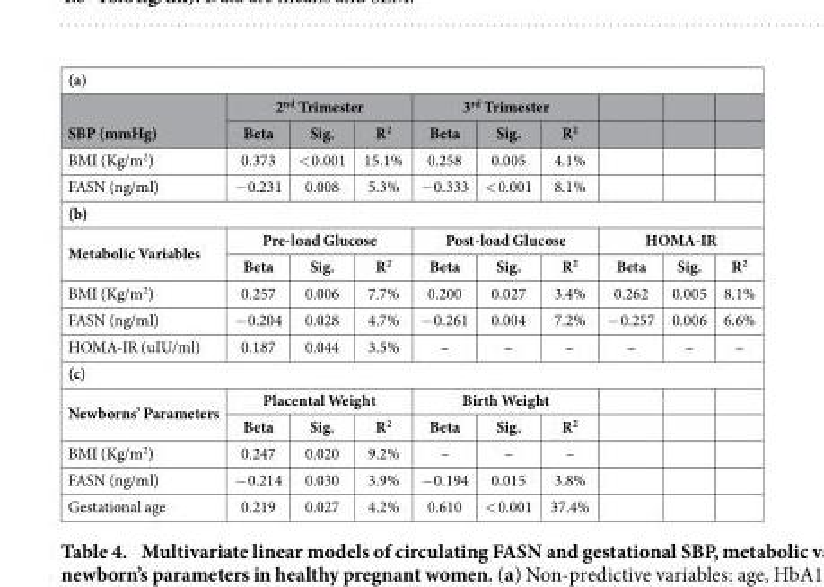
<table><tbody><tr><td colspan="10">(a)</td></tr><tr><td rowspan="2">SBP (mmHg)</td><td colspan="3">2<sup>nd</sup> Trimester</td><td colspan="3">3<sup>rd</sup> Trimester</td><td></td><td></td><td></td></tr><tr><td>Beta</td><td>Sig.</td><td>R<sup>2</sup></td><td>Beta</td><td>Sig.</td><td>R<sup>2</sup></td><td></td><td></td><td></td></tr><tr><td>BMI (Kg/m<sup>2</sup>)</td><td>0.373</td><td>&lt; 0.001</td><td>15.1%</td><td>0.258</td><td>0.005</td><td>4.1%</td><td></td><td></td><td></td></tr><tr><td>FASN (ng/ml)</td><td>− 0.231</td><td>0.008</td><td>5.3%</td><td>− 0.333</td><td>&lt; 0.001</td><td>8.1%</td><td></td><td></td><td></td></tr><tr><td colspan="10">(b)</td></tr><tr><td rowspan="2">Metabolic Variables</td><td colspan="3">Pre-load Glucose</td><td colspan="3">Post-load Glucose</td><td colspan="3">HOMA-IR</td></tr><tr><td>Beta</td><td>Sig.</td><td>R<sup>2</sup></td><td>Beta</td><td>Sig.</td><td>R<sup>2</sup></td><td>Beta</td><td>Sig.</td><td>R<sup>2</sup></td></tr><tr><td>BMI (Kg/m<sup>2</sup>)</td><td>0.257</td><td>0.006</td><td>7.7%</td><td>0.200</td><td>0.027</td><td>3.4%</td><td>0.262</td><td>0.005</td><td>8.1%</td></tr><tr><td>FASN (ng/ml)</td><td>− 0.204</td><td>0.028</td><td>4.7%</td><td>− 0.261</td><td>0.004</td><td>7.2%</td><td>− 0.257</td><td>0.006</td><td>6.6%</td></tr><tr><td>HOMA-IR (uIU/ml)</td><td>0.187</td><td>0.044</td><td>3.5%</td><td>–</td><td>–</td><td>–</td><td>–</td><td>–</td><td>–</td></tr><tr><td colspan="10">(c)</td></tr><tr><td rowspan="2">Newborns’ Parameters</td><td colspan="3">Placental Weight</td><td colspan="3">Birth Weight</td><td></td><td></td><td></td></tr><tr><td>Beta</td><td>Sig.</td><td>R<sup>2</sup></td><td>Beta</td><td>Sig.</td><td>R<sup>2</sup></td><td></td><td></td><td></td></tr><tr><td>BMI (Kg/m<sup>2</sup>)</td><td>0.247</td><td>0.020</td><td>9.2%</td><td>–</td><td>–</td><td>–</td><td></td><td></td><td></td></tr><tr><td>FASN (ng/ml)</td><td>− 0.214</td><td>0.030</td><td>3.9%</td><td>− 0.194</td><td>0.015</td><td>3.8%</td><td></td><td></td><td></td></tr><tr><td>Gestational age</td><td>0.219</td><td>0.027</td><td>4.2%</td><td>0.610</td><td>&lt; 0.001</td><td>37.4%</td><td></td><td></td><td></td></tr></tbody></table>